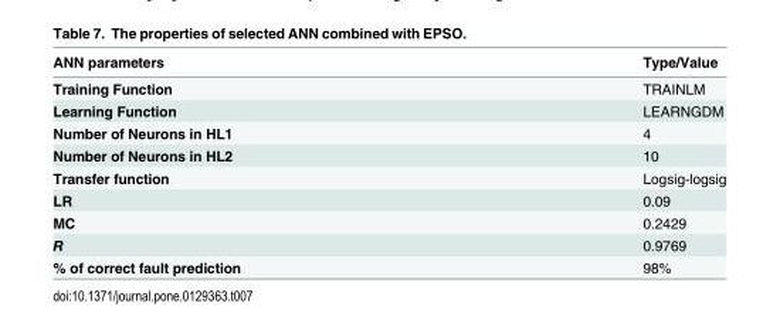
<table><thead><tr><td>ANN parameters</td><td>Type/Value</td></tr></thead><tbody><tr><td>Training Function</td><td>TRAINLM</td></tr><tr><td>Learning Function</td><td>LEARNGDM</td></tr><tr><td>Number of Neurons in HL1</td><td>4</td></tr><tr><td>Number of Neurons in HL2</td><td>10</td></tr><tr><td>Transfer function</td><td>Logsig-logsig</td></tr><tr><td>LR</td><td>0.09</td></tr><tr><td>MC</td><td>0.2429</td></tr><tr><td>R</td><td>0.9769</td></tr><tr><td>% of correct fault prediction</td><td>98%</td></tr></tbody></table>